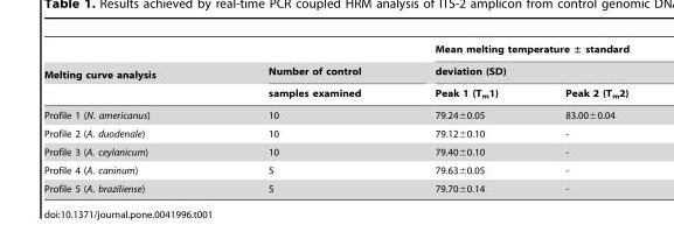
<table><thead><tr><td rowspan="3">Melting curve analysis</td><td rowspan="3">Number of control samples examined</td><td rowspan="2" colspan="2">Mean melting temperature ± standard deviation (SD)</td></tr><tr></tr><tr><td>Peak 1 (T<sub>m</sub>1)</td><td>Peak 2 (T<sub>m</sub>2)</td></tr></thead><tbody><tr><td>Profile 1 (N. americanus)</td><td>10</td><td>79.24±0.05</td><td>83.00±0.04</td></tr><tr><td>Profile 2 (A. duodenale)</td><td>10</td><td>79.12±0.10</td><td>-</td></tr><tr><td>Profile 3 (A. ceylanicum)</td><td>10</td><td>79.40±0.10</td><td>-</td></tr><tr><td>Profile 4 (A. caninum)</td><td>5</td><td>79.63±0.05</td><td>-</td></tr><tr><td>Profile 5 (A. braziliense)</td><td>5</td><td>79.70±0.14</td><td>-</td></tr></tbody></table>